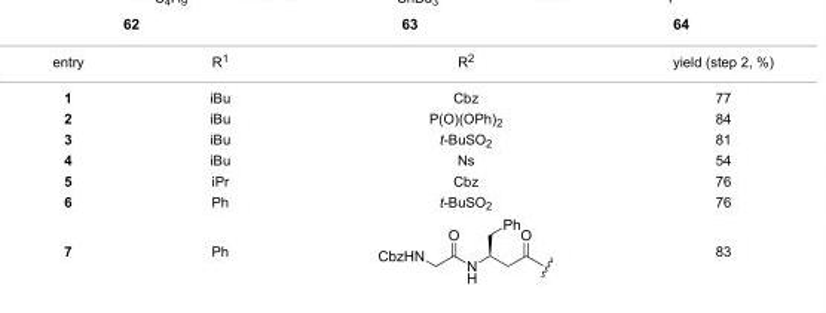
<table><tbody><tr><td>entry</td><td>R<sup>1</sup></td><td>R<sup>2</sup></td><td>yield (step 2, %)</td></tr><tr><td>1</td><td>iBu</td><td>Cbz</td><td>77</td></tr><tr><td>2</td><td>iBu</td><td>P(O)(OPh)<sub>2</sub></td><td>84</td></tr><tr><td>3</td><td>iBu</td><td>t-BuSO<sub>2</sub></td><td>81</td></tr><tr><td>4</td><td>iBu</td><td>Ns</td><td>54</td></tr><tr><td>5</td><td>iPr</td><td>Cbz</td><td>76</td></tr><tr><td>6</td><td>Ph</td><td>t-BuSO<sub>2</sub></td><td>76</td></tr><tr><td>7</td><td>Ph</td><td></td><td>83</td></tr></tbody></table>